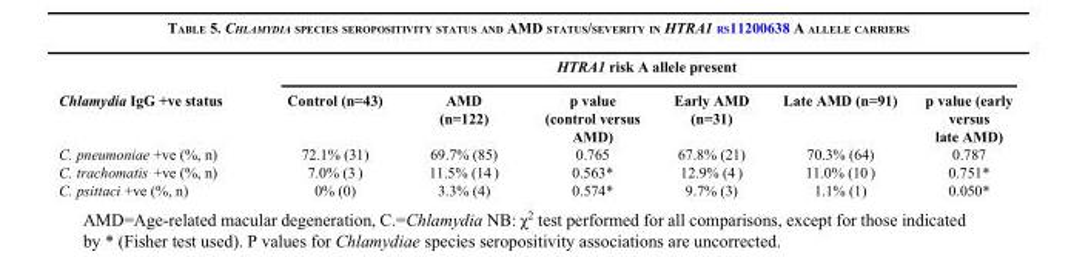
<table><thead><tr><td rowspan="2">Chlamydia IgG +ve status</td><td colspan="6">HTRA1 risk A allele present</td></tr><tr><td>Control (n=43)</td><td>AMD (n=122)</td><td>p value (control versus AMD)</td><td>Early AMD (n=31)</td><td>Late AMD (n=91)</td><td>p value (early versus late AMD)</td></tr></thead><tbody><tr><td>C. pneumoniae +ve (%, n)</td><td>72.1% (31)</td><td>69.7% (85)</td><td>0.765</td><td>67.8% (21)</td><td>70.3% (64)</td><td>0.787</td></tr><tr><td>C. trachomatis +ve (%, n)</td><td>7.0% (3 )</td><td>11.5% (14 )</td><td>0.563*</td><td>12.9% (4 )</td><td>11.0% (10 )</td><td>0.751*</td></tr><tr><td>C. psittaci +ve (%, n)</td><td>0% (0)</td><td>3.3% (4)</td><td>0.574*</td><td>9.7% (3)</td><td>1.1% (1)</td><td>0.050*</td></tr></tbody></table>